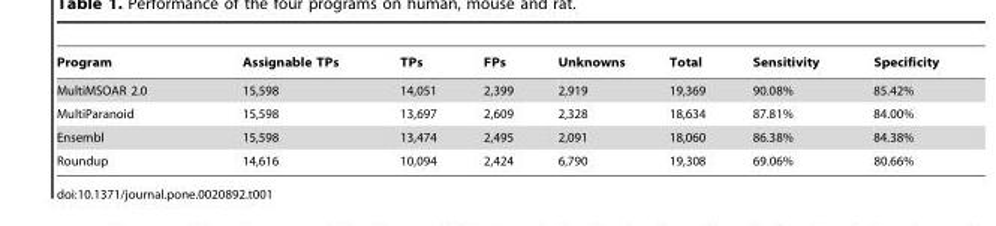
<table><thead><tr><td>Program</td><td>Assignable TPs</td><td>TPs</td><td>FPs</td><td>Unknowns</td><td>Total</td><td>Sensitivity</td><td>Specificity</td></tr></thead><tbody><tr><td>MultiMSOAR 2.0</td><td>15,598</td><td>14,051</td><td>2,399</td><td>2,919</td><td>19,369</td><td>90.08%</td><td>85.42%</td></tr><tr><td>MultiParanoid</td><td>15,598</td><td>13,697</td><td>2,609</td><td>2,328</td><td>18,634</td><td>87.81%</td><td>84.00%</td></tr><tr><td>Ensembl</td><td>15,598</td><td>13,474</td><td>2,495</td><td>2,091</td><td>18,060</td><td>86.38%</td><td>84.38%</td></tr><tr><td>Roundup</td><td>14,616</td><td>10,094</td><td>2,424</td><td>6,790</td><td>19,308</td><td>69.06%</td><td>80.66%</td></tr></tbody></table>